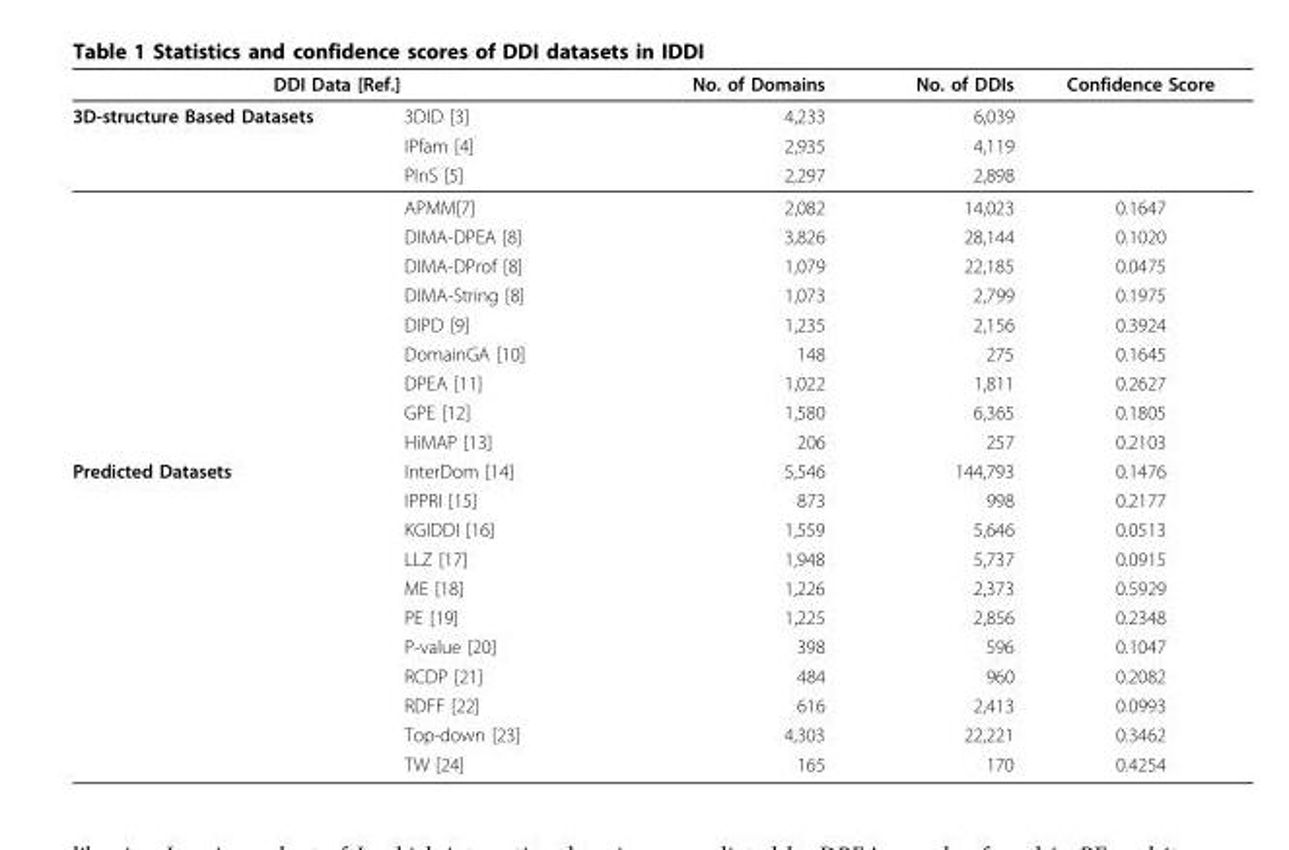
<table><thead><tr><td colspan="2">DDI Data [Ref.]</td><td rowspan="2">No. of Domains 4,233</td><td rowspan="2">No. of DDIs 6,039</td><td rowspan="2">Confidence Score</td></tr><tr><td>3D-structure Based Datasets</td><td>3DID [3]</td></tr></thead><tbody><tr><td></td><td>IPfam [4]</td><td>2,935</td><td>4,119</td><td></td></tr><tr><td></td><td>PInS [5]</td><td>2,297</td><td>2,898</td><td></td></tr><tr><td></td><td>APMM[7]</td><td>2,082</td><td>14,023</td><td>0.1647</td></tr><tr><td></td><td>DIMA-DPEA [8]</td><td>3,826</td><td>28,144</td><td>0.1020</td></tr><tr><td></td><td>DIMA-DProf [8]</td><td>1,079</td><td>22,185</td><td>0.0475</td></tr><tr><td></td><td>DIMA-String [8]</td><td>1,073</td><td>2,799</td><td>0.1975</td></tr><tr><td></td><td>DIPD [9]</td><td>1,235</td><td>2,156</td><td>0.3924</td></tr><tr><td></td><td>DomainGA [10]</td><td>148</td><td>275</td><td>0.1645</td></tr><tr><td></td><td>DPEA [11]</td><td>1,022</td><td>1,811</td><td>0.2627</td></tr><tr><td></td><td>GPE [12]</td><td>1,580</td><td>6,365</td><td>0.1805</td></tr><tr><td></td><td>HiMAP [13]</td><td>206</td><td>257</td><td>0.2103</td></tr><tr><td rowspan="11">Predicted Datasets</td><td>InterDom [14]</td><td>5,546</td><td>144,793</td><td>0.1476</td></tr><tr><td>IPPRI [15]</td><td>873</td><td>998</td><td>0.2177</td></tr><tr><td>KGIDDI [16]</td><td>1,559</td><td>5,646</td><td>0.0513</td></tr><tr><td>LLZ [17]</td><td>1,948</td><td>5,737</td><td>0.0915</td></tr><tr><td>ME [18]</td><td>1,226</td><td>2,373</td><td>0.5929</td></tr><tr><td>PE [19]</td><td>1,225</td><td>2,856</td><td>0.2348</td></tr><tr><td>P-value [20]</td><td>398</td><td>596</td><td>0.1047</td></tr><tr><td>RCDP [21]</td><td>484</td><td>960</td><td>0.2082</td></tr><tr><td>RDFF [22]</td><td>616</td><td>2,413</td><td>0.0993</td></tr><tr><td>Top-down [23]</td><td>4,303</td><td>22,221</td><td>0.3462</td></tr><tr><td>TW [24]</td><td>165</td><td>170</td><td>0.4254</td></tr></tbody></table>